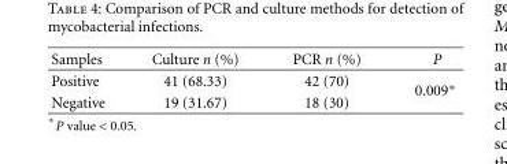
<table><thead><tr><td>Samples</td><td>Culture n (%)</td><td>PCR n (%)</td><td>P</td></tr></thead><tbody><tr><td>Positive</td><td>41 (68.33)</td><td>42 (70)</td><td rowspan="2">0.009∗</td></tr><tr><td>Negative</td><td>19 (31.67)</td><td>18 (30)</td></tr></tbody></table>